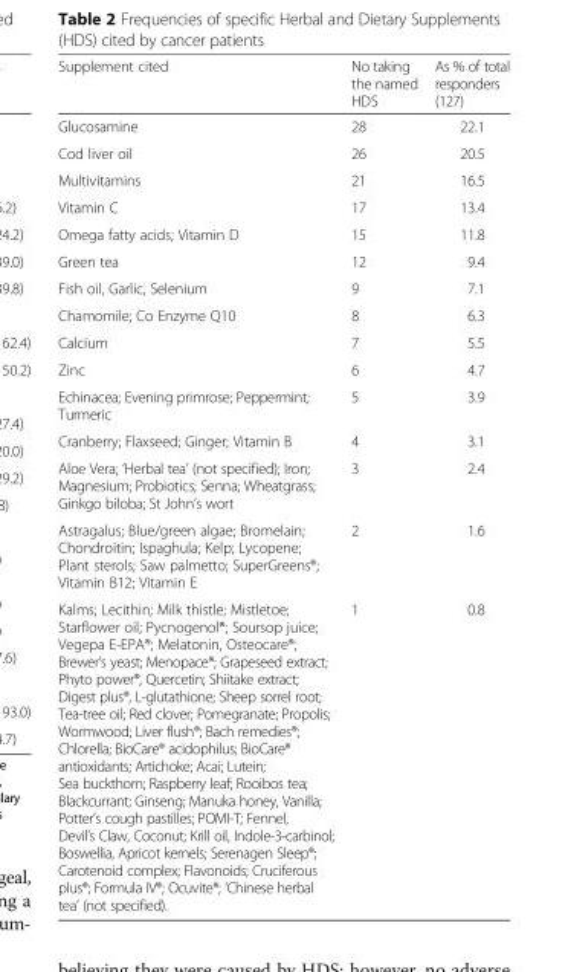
<table><thead><tr><td>Supplement cited</td><td>No taking the named HDS</td><td>As % of total responders (127)</td></tr></thead><tbody><tr><td>Glucosamine</td><td>28</td><td>22.1</td></tr><tr><td>Cod liver oil</td><td>26</td><td>20.5</td></tr><tr><td>Multivitamins</td><td>21</td><td>16.5</td></tr><tr><td>Vitamin C</td><td>17</td><td>13.4</td></tr><tr><td>Omega fatty acids; Vitamin D</td><td>15</td><td>11.8</td></tr><tr><td>Green tea</td><td>12</td><td>9.4</td></tr><tr><td>Fish oil, Garlic, Selenium</td><td>9</td><td>7.1</td></tr><tr><td>Chamomile; Co Enzyme Q10</td><td>8</td><td>6.3</td></tr><tr><td>Calcium</td><td>7</td><td>5.5</td></tr><tr><td>Zinc</td><td>6</td><td>4.7</td></tr><tr><td>Echinacea; Evening primrose; Peppermint; Turmeric</td><td>5</td><td>3.9</td></tr><tr><td>Cranberry; Flaxseed; Ginger; Vitamin B</td><td>4</td><td>3.1</td></tr><tr><td>Aloe Vera; ‘Herbal tea’ (not specified); Iron; Magnesium; Probiotics; Senna; Wheatgrass; Ginkgo biloba; St John’s wort</td><td>3</td><td>2.4</td></tr><tr><td>Astragalus; Blue/green algae; Bromelain; Chondroitin; Ispaghula; Kelp; Lycopene; Plant sterols; Saw palmetto; SuperGreens®; Vitamin B12; Vitamin E</td><td>2</td><td>1.6</td></tr><tr><td>Kalms; Lecithin; Milk thistle; Mistletoe; Starflower oil; Pycnogenol®; Soursop juice; Vegepa E-EPA®; Melatonin, Osteocare®; Brewer’s yeast; Menopace®; Grapeseed extract; Phyto power®, Quercetin; Shiitake extract; Digest plus®, L-glutathione; Sheep sorrel root; Tea-tree oil; Red clover; Pomegranate; Propolis; Wormwood; Liver flush®; Bach remedies®; Chlorella; BioCare® acidophilus; BioCare® antioxidants; Artichoke; Acai; Lutein; Sea buckthorn; Raspberry leaf; Rooibos tea; Blackcurrant; Ginseng; Manuka honey, Vanilla; Potter’s cough pastilles; POMI-T; Fennel, Devil’s Claw, Coconut; Krill oil, Indole-3-carbinol; Boswellia, Apricot kernels; Serenagen Sleep®; Carotenoid complex; Flavonoids; Cruciferous plus®; Formula IV®; Ocuvite®; ‘Chinese herbal tea’ (not specified).</td><td>1</td><td>0.8</td></tr></tbody></table>